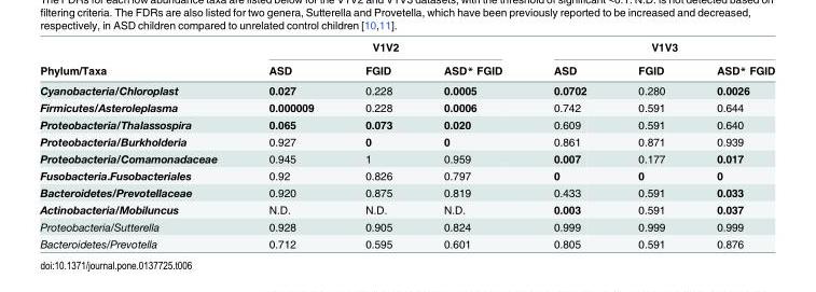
<table><thead><tr><td rowspan="2">Phylum/Taxa</td><td colspan="3">V1V2</td><td colspan="3">V1V3</td></tr><tr><td>ASD</td><td>FGID</td><td>ASD* FGID</td><td>ASD</td><td>FGID</td><td>ASD* FGID</td></tr></thead><tbody><tr><td>Cyanobacteria/Chloroplast</td><td>0.027</td><td>0.228</td><td>0.0005</td><td>0.0702</td><td>0.280</td><td>0.0026</td></tr><tr><td>Firmicutes/Asteroleplasma</td><td>0.000009</td><td>0.228</td><td>0.0006</td><td>0.742</td><td>0.591</td><td>0.644</td></tr><tr><td>Proteobacteria/Thalassospira</td><td>0.065</td><td>0.073</td><td>0.020</td><td>0.609</td><td>0.591</td><td>0.640</td></tr><tr><td>Proteobacteria/Burkholderia</td><td>0.927</td><td>0</td><td>0</td><td>0.861</td><td>0.871</td><td>0.939</td></tr><tr><td>Proteobacteria/Comamonadaceae</td><td>0.945</td><td>1</td><td>0.959</td><td>0.007</td><td>0.177</td><td>0.017</td></tr><tr><td>Fusobacteria.Fusobacteriales</td><td>0.92</td><td>0.826</td><td>0.797</td><td>0</td><td>0</td><td>0</td></tr><tr><td>Bacteroidetes/Prevotellaceae</td><td>0.920</td><td>0.875</td><td>0.819</td><td>0.433</td><td>0.591</td><td>0.033</td></tr><tr><td>Actinobacteria/Mobiluncus</td><td>N.D.</td><td>N.D.</td><td>N.D.</td><td>0.003</td><td>0.591</td><td>0.037</td></tr><tr><td>Proteobacteria/Sutterella</td><td>0.928</td><td>0.905</td><td>0.824</td><td>0.999</td><td>0.999</td><td>0.999</td></tr><tr><td>Bacteroidetes/Prevotella</td><td>0.712</td><td>0.595</td><td>0.601</td><td>0.805</td><td>0.591</td><td>0.876</td></tr></tbody></table>